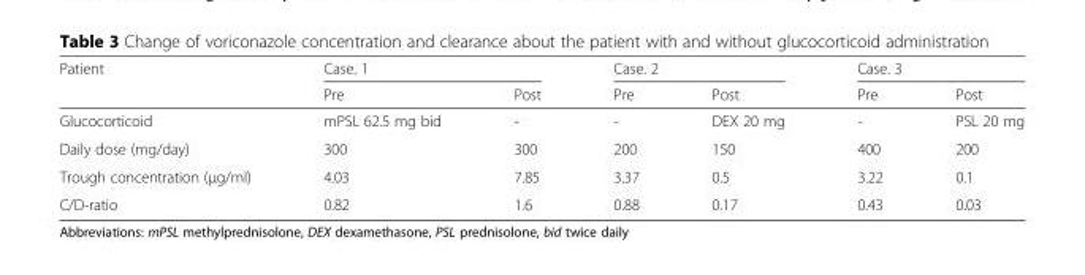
<table><thead><tr><td rowspan="2">Patient</td><td colspan="2">Case. 1</td><td colspan="2">Case. 2</td><td colspan="2">Case. 3</td></tr><tr><td>Pre</td><td>Post</td><td>Pre</td><td>Post</td><td>Pre</td><td>Post</td></tr></thead><tbody><tr><td>Glucocorticoid</td><td>mPSL 62.5 mg bid</td><td>-</td><td>-</td><td>DEX 20 mg</td><td>-</td><td>PSL 20 mg</td></tr><tr><td>Daily dose (mg/day)</td><td>300</td><td>300</td><td>200</td><td>150</td><td>400</td><td>200</td></tr><tr><td>Trough concentration (μg/ml)</td><td>4.03</td><td>7.85</td><td>3.37</td><td>0.5</td><td>3.22</td><td>0.1</td></tr><tr><td>C/D-ratio</td><td>0.82</td><td>1.6</td><td>0.88</td><td>0.17</td><td>0.43</td><td>0.03</td></tr></tbody></table>